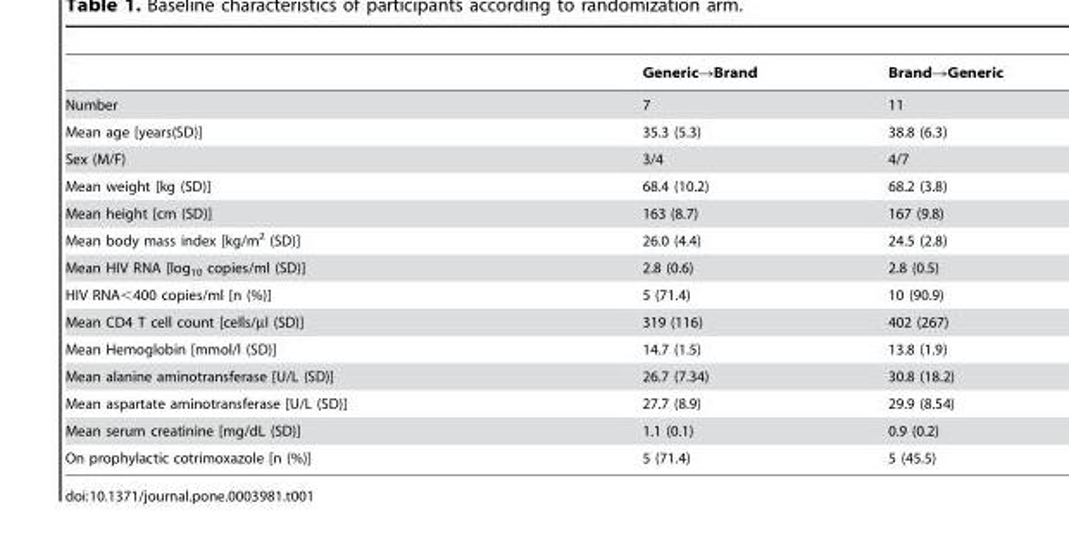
<table><thead><tr><td></td><td>Generic→Brand</td><td>Brand→Generic</td></tr></thead><tbody><tr><td>Number</td><td>7</td><td>11</td></tr><tr><td>Mean age [years(SD)]</td><td>35.3 (5.3)</td><td>38.8 (6.3)</td></tr><tr><td>Sex (M/F)</td><td>3/4</td><td>4/7</td></tr><tr><td>Mean weight [kg (SD)]</td><td>68.4 (10.2)</td><td>68.2 (3.8)</td></tr><tr><td>Mean height [cm (SD)]</td><td>163 (8.7)</td><td>167 (9.8)</td></tr><tr><td>Mean body mass index [kg/m<sup>2</sup> (SD)]</td><td>26.0 (4.4)</td><td>24.5 (2.8)</td></tr><tr><td>Mean HIV RNA [log<sub>10</sub> copies/ml (SD)]</td><td>2.8 (0.6)</td><td>2.8 (0.5)</td></tr><tr><td>HIV RNA&lt;400 copies/ml [n (%)]</td><td>5 (71.4)</td><td>10 (90.9)</td></tr><tr><td>Mean CD4 T cell count [cells/µl (SD)]</td><td>319 (116)</td><td>402 (267)</td></tr><tr><td>Mean Hemoglobin [mmol/l (SD)]</td><td>14.7 (1.5)</td><td>13.8 (1.9)</td></tr><tr><td>Mean alanine aminotransferase [U/L (SD)]</td><td>26.7 (7.34)</td><td>30.8 (18.2)</td></tr><tr><td>Mean aspartate aminotransferase [U/L (SD)]</td><td>27.7 (8.9)</td><td>29.9 (8.54)</td></tr><tr><td>Mean serum creatinine [mg/dL (SD)]</td><td>1.1 (0.1)</td><td>0.9 (0.2)</td></tr><tr><td>On prophylactic cotrimoxazole [n (%)]</td><td>5 (71.4)</td><td>5 (45.5)</td></tr></tbody></table>